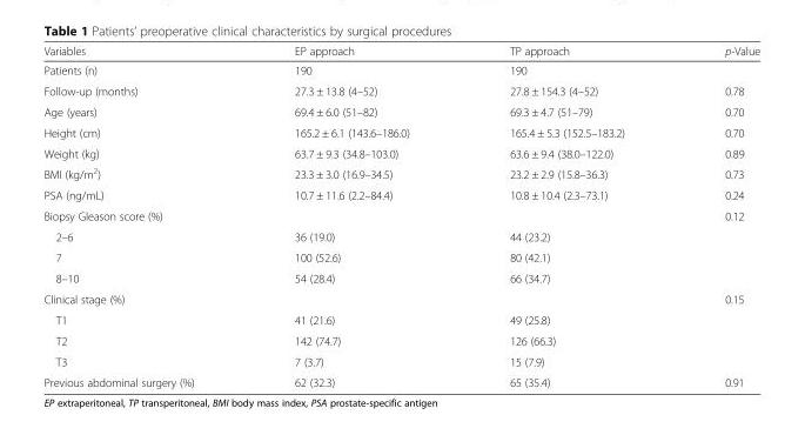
<table><thead><tr><td>Variables</td><td>EP approach</td><td>TP approach</td><td>p-Value</td></tr></thead><tbody><tr><td>Patients (n)</td><td>190</td><td>190</td><td></td></tr><tr><td>Follow-up (months)</td><td>27.3 ± 13.8 (4–52)</td><td>27.8 ± 154.3 (4–52)</td><td>0.78</td></tr><tr><td>Age (years)</td><td>69.4 ± 6.0 (51–82)</td><td>69.3 ± 4.7 (51–79)</td><td>0.70</td></tr><tr><td>Height (cm)</td><td>165.2 ± 6.1 (143.6–186.0)</td><td>165.4 ± 5.3 (152.5–183.2)</td><td>0.70</td></tr><tr><td>Weight (kg)</td><td>63.7 ± 9.3 (34.8–103.0)</td><td>63.6 ± 9.4 (38.0–122.0)</td><td>0.89</td></tr><tr><td>BMI (kg/m<sup>2</sup>)</td><td>23.3 ± 3.0 (16.9–34.5)</td><td>23.2 ± 2.9 (15.8–36.3)</td><td>0.73</td></tr><tr><td>PSA (ng/mL)</td><td>10.7 ± 11.6 (2.2–84.4)</td><td>10.8 ± 10.4 (2.3–73.1)</td><td>0.24</td></tr><tr><td>Biopsy Gleason score (%)</td><td></td><td></td><td>0.12</td></tr><tr><td>2–6</td><td>36 (19.0)</td><td>44 (23.2)</td><td></td></tr><tr><td>7</td><td>100 (52.6)</td><td>80 (42.1)</td><td></td></tr><tr><td>8–10</td><td>54 (28.4)</td><td>66 (34.7)</td><td></td></tr><tr><td>Clinical stage (%)</td><td></td><td></td><td>0.15</td></tr><tr><td>T1</td><td>41 (21.6)</td><td>49 (25.8)</td><td></td></tr><tr><td>T2</td><td>142 (74.7)</td><td>126 (66.3)</td><td></td></tr><tr><td>T3</td><td>7 (3.7)</td><td>15 (7.9)</td><td></td></tr><tr><td>Previous abdominal surgery (%)</td><td>62 (32.3)</td><td>65 (35.4)</td><td>0.91</td></tr></tbody></table>